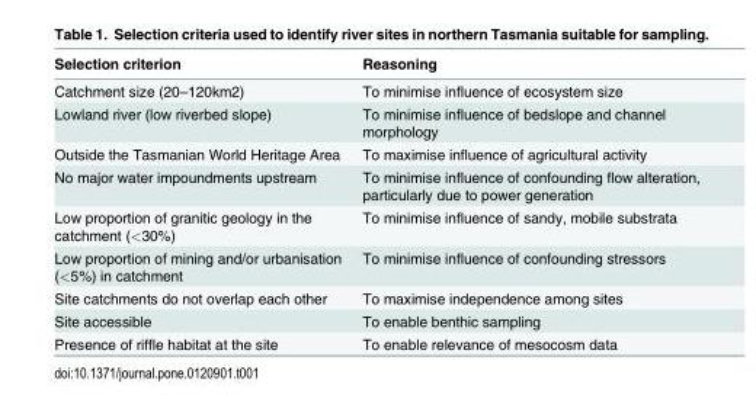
<table><thead><tr><td>Selection criterion</td><td>Reasoning</td></tr></thead><tbody><tr><td>Catchment size (20–120km2)</td><td>To minimise influence of ecosystem size</td></tr><tr><td>Lowland river (low riverbed slope)</td><td>To minimise influence of bedslope and channel morphology</td></tr><tr><td>Outside the Tasmanian World Heritage Area</td><td>To maximise influence of agricultural activity</td></tr><tr><td>No major water impoundments upstream</td><td>To minimise influence of confounding flow alteration, particularly due to power generation</td></tr><tr><td>Low proportion of granitic geology in the catchment (&lt;30%)</td><td>To minimise influence of sandy, mobile substrata</td></tr><tr><td>Low proportion of mining and/or urbanisation (&lt;5%) in catchment</td><td>To minimise influence of confounding stressors</td></tr><tr><td>Site catchments do not overlap each other</td><td>To maximise independence among sites</td></tr><tr><td>Site accessible</td><td>To enable benthic sampling</td></tr><tr><td>Presence of riffle habitat at the site</td><td>To enable relevance of mesocosm data</td></tr></tbody></table>